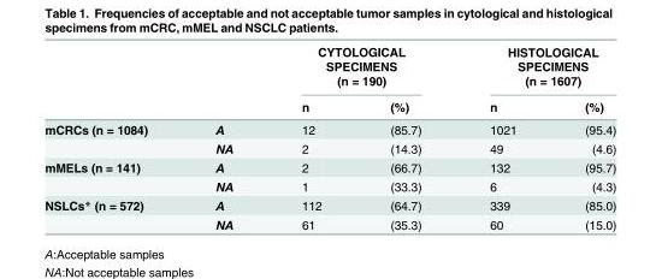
<table><thead><tr><td rowspan="2"></td><td rowspan="2"></td><td colspan="2">CYTOLOGICAL SPECIMENS (n = 190)</td><td colspan="2">HISTOLOGICAL SPECIMENS (n = 1607)</td></tr><tr><td>n</td><td>(%)</td><td>n</td><td>(%)</td></tr></thead><tbody><tr><td rowspan="2">mCRCs (n = 1084)</td><td>A</td><td>12</td><td>(85.7)</td><td>1021</td><td>(95.4)</td></tr><tr><td>NA</td><td>2</td><td>(14.3)</td><td>49</td><td>(4.6)</td></tr><tr><td rowspan="2">mMELs (n = 141)</td><td>A</td><td>2</td><td>(66.7)</td><td>132</td><td>(95.7)</td></tr><tr><td>NA</td><td>1</td><td>(33.3)</td><td>6</td><td>(4.3)</td></tr><tr><td rowspan="2">NSLCs* (n = 572)</td><td>A</td><td>112</td><td>(64.7)</td><td>339</td><td>(85.0)</td></tr><tr><td>NA</td><td>61</td><td>(35.3)</td><td>60</td><td>(15.0)</td></tr></tbody></table>